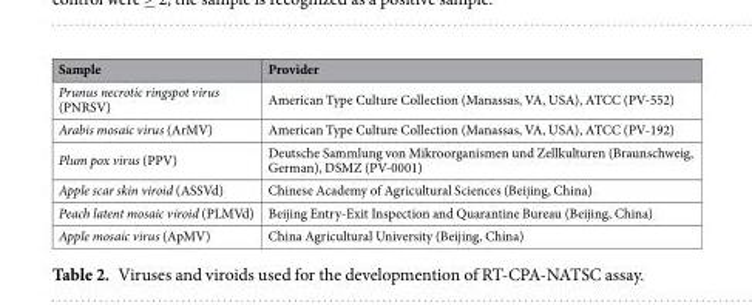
<table><thead><tr><td>Sample</td><td>Provider</td></tr></thead><tbody><tr><td>Prunus necrotic ringspot virus (PNRSV)</td><td>American Type Culture Collection (Manassas, VA, USA), ATCC (PV-552)</td></tr><tr><td>Arabis mosaic virus (ArMV)</td><td>American Type Culture Collection (Manassas, VA, USA), ATCC (PV-192)</td></tr><tr><td>Plum pox virus (PPV)</td><td>Deutsche Sammlung von Mikroorganismen und Zellkulturen (Braunschweig, German), DSMZ (PV-0001)</td></tr><tr><td>Apple scar skin viroid (ASSVd)</td><td>Chinese Academy of Agricultural Sciences (Beijing, China)</td></tr><tr><td>Peach latent mosaic viroid (PLMVd)</td><td>Beijing Entry-Exit Inspection and Quarantine Bureau (Beijing, China)</td></tr><tr><td>Apple mosaic virus (ApMV)</td><td>China Agricultural University (Beijing, China)</td></tr></tbody></table>